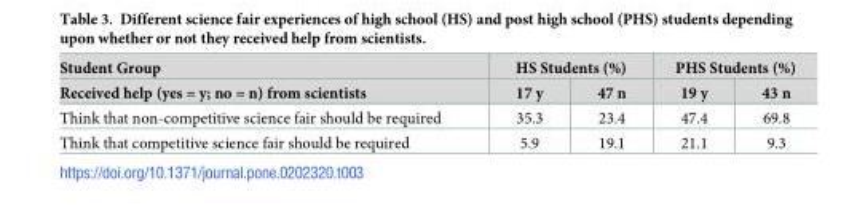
<table><thead><tr><td rowspan="2">Student Group Received help (yes = y; no = n) from scientists</td><td colspan="2">HS Students (%)</td><td colspan="2">PHS Students (%)</td></tr><tr><td>17 y</td><td>47 n</td><td>19 y</td><td>43 n</td></tr></thead><tbody><tr><td>Think that non-competitive science fair should be required</td><td>35.3</td><td>23.4</td><td>47.4</td><td>69.8</td></tr><tr><td>Think that competitive science fair should be required</td><td>5.9</td><td>19.1</td><td>21.1</td><td>9.3</td></tr></tbody></table>